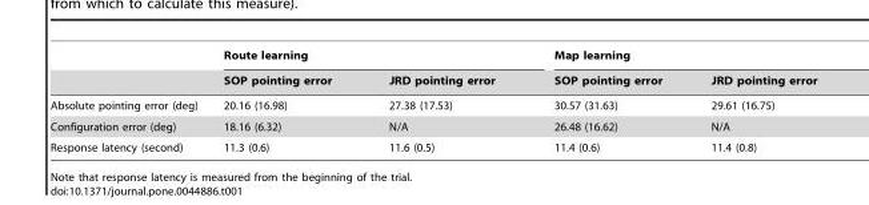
<table><thead><tr><td rowspan="2"></td><td colspan="2">Route learning</td><td colspan="2">Map learning</td></tr><tr><td>SOP pointing error</td><td>JRD pointing error</td><td>SOP pointing error</td><td>JRD pointing error</td></tr></thead><tbody><tr><td>Absolute pointing error (deg)</td><td>20.16 (16.98)</td><td>27.38 (17.53)</td><td>30.57 (31.63)</td><td>29.61 (16.75)</td></tr><tr><td>Configuration error (deg)</td><td>18.16 (6.32)</td><td>N/A</td><td>26.48 (16.62)</td><td>N/A</td></tr><tr><td>Response latency (second)</td><td>11.3 (0.6)</td><td>11.6 (0.5)</td><td>11.4 (0.6)</td><td>11.4 (0.8)</td></tr></tbody></table>